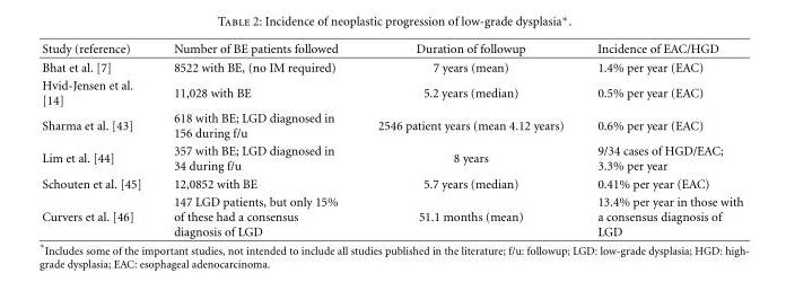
<table><thead><tr><td>Study (reference)</td><td>Number of BE patients followed</td><td>Duration of followup</td><td>Incidence of EAC/HGD</td></tr></thead><tbody><tr><td>Bhat et al. [7]</td><td>8522 with BE, (no IM required)</td><td>7 years (mean)</td><td>1.4% per year (EAC)</td></tr><tr><td>Hvid-Jensen et al. [14]</td><td>11,028 with BE</td><td>5.2 years (median)</td><td>0.5% per year (EAC)</td></tr><tr><td>Sharma et al. [43]</td><td>618 with BE; LGD diagnosed in 156 during f/u</td><td>2546 patient years (mean 4.12 years)</td><td>0.6% per year (EAC)</td></tr><tr><td>Lim et al. [44]</td><td>357 with BE; LGD diagnosed in 34 during f/u</td><td>8 years</td><td>9/34 cases of HGD/EAC; 3.3% per year</td></tr><tr><td>Schouten et al. [45]</td><td>12,0852 with BE</td><td>5.7 years (median)</td><td>0.41% per year (EAC)</td></tr><tr><td>Curvers et al. [46]</td><td>147 LGD patients, but only 15% of these had a consensus diagnosis of LGD</td><td>51.1 months (mean)</td><td>13.4% per year in those with a consensus diagnosis of LGD</td></tr></tbody></table>